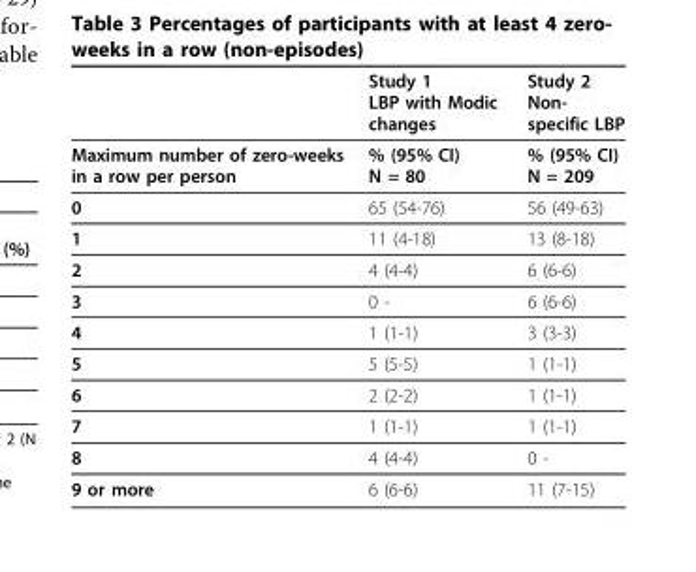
<table><thead><tr><td></td><td>Study 1 LBP with Modic changes</td><td>Study 2 Non- specific LBP</td></tr></thead><tbody><tr><td>Maximum number of zero-weeks in a row per person</td><td>% (95% CI) N = 80</td><td>% (95% CI) N = 209</td></tr><tr><td>0</td><td>65 (54-76)</td><td>56 (49-63)</td></tr><tr><td>1</td><td>11 (4-18)</td><td>13 (8-18)</td></tr><tr><td>2</td><td>4 (4-4)</td><td>6 (6-6)</td></tr><tr><td>3</td><td>0 -</td><td>6 (6-6)</td></tr><tr><td>4</td><td>1 (1-1)</td><td>3 (3-3)</td></tr><tr><td>5</td><td>5 (5-5)</td><td>1 (1-1)</td></tr><tr><td>6</td><td>2 (2-2)</td><td>1 (1-1)</td></tr><tr><td>7</td><td>1 (1-1)</td><td>1 (1-1)</td></tr><tr><td>8</td><td>4 (4-4)</td><td>0 -</td></tr><tr><td>9 or more</td><td>6 (6-6)</td><td>11 (7-15)</td></tr></tbody></table>